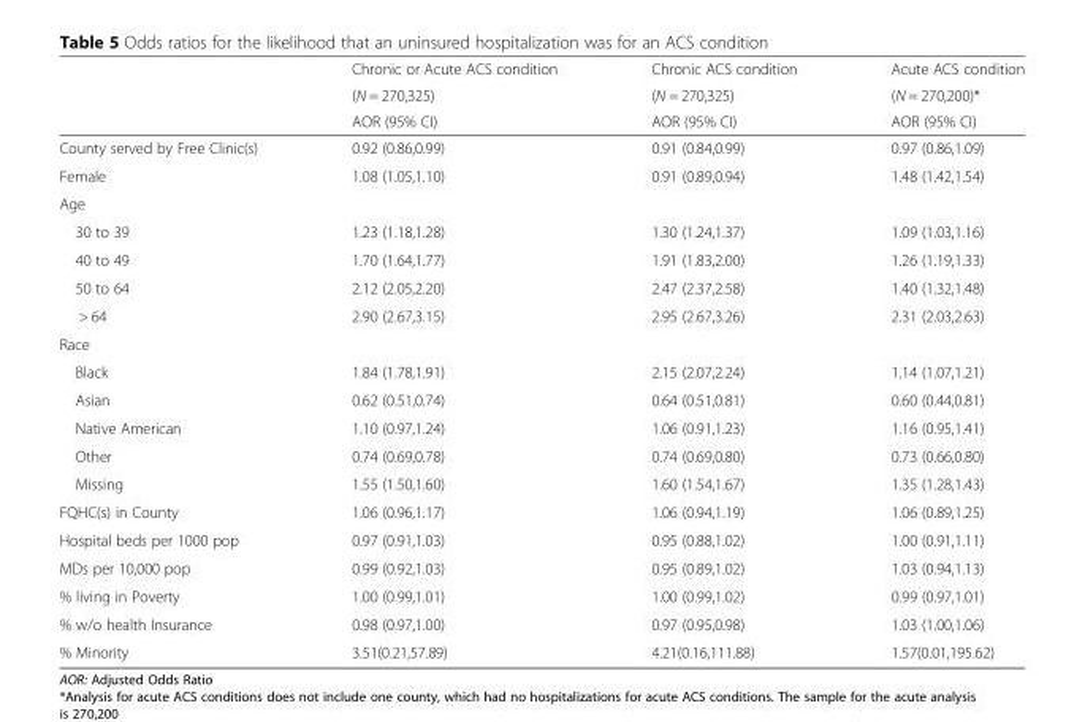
<table><thead><tr><td rowspan="3"></td><td rowspan="3">Chronic or Acute ACS condition (N = 270,325) AOR (95% CI)</td><td rowspan="3">Chronic ACS condition (N = 270,325) AOR (95% CI)</td><td rowspan="3">Acute ACS condition (N = 270,200)* AOR (95% CI)</td></tr><tr></tr><tr></tr></thead><tbody><tr><td>County served by Free Clinic(s)</td><td>0.92 (0.86,0.99)</td><td>0.91 (0.84,0.99)</td><td>0.97 (0.86,1.09)</td></tr><tr><td>Female</td><td>1.08 (1.05,1.10)</td><td>0.91 (0.89,0.94)</td><td>1.48 (1.42,1.54)</td></tr><tr><td colspan="4">Age</td></tr><tr><td>30 to 39</td><td>1.23 (1.18,1.28)</td><td>1.30 (1.24,1.37)</td><td>1.09 (1.03,1.16)</td></tr><tr><td>40 to 49</td><td>1.70 (1.64,1.77)</td><td>1.91 (1.83,2.00)</td><td>1.26 (1.19,1.33)</td></tr><tr><td>50 to 64</td><td>2.12 (2.05,2.20)</td><td>2.47 (2.37,2.58)</td><td>1.40 (1.32,1.48)</td></tr><tr><td>&gt; 64</td><td>2.90 (2.67,3.15)</td><td>2.95 (2.67,3.26)</td><td>2.31 (2.03,2.63)</td></tr><tr><td colspan="4">Race</td></tr><tr><td>Black</td><td>1.84 (1.78,1.91)</td><td>2.15 (2.07,2.24)</td><td>1.14 (1.07,1.21)</td></tr><tr><td>Asian</td><td>0.62 (0.51,0.74)</td><td>0.64 (0.51,0.81)</td><td>0.60 (0.44,0.81)</td></tr><tr><td>Native American</td><td>1.10 (0.97,1.24)</td><td>1.06 (0.91,1.23)</td><td>1.16 (0.95,1.41)</td></tr><tr><td>Other</td><td>0.74 (0.69,0.78)</td><td>0.74 (0.69,0.80)</td><td>0.73 (0.66,0.80)</td></tr><tr><td>Missing</td><td>1.55 (1.50,1.60)</td><td>1.60 (1.54,1.67)</td><td>1.35 (1.28,1.43)</td></tr><tr><td>FQHC(s) in County</td><td>1.06 (0.96,1.17)</td><td>1.06 (0.94,1.19)</td><td>1.06 (0.89,1.25)</td></tr><tr><td>Hospital beds per 1000 pop</td><td>0.97 (0.91,1.03)</td><td>0.95 (0.88,1.02)</td><td>1.00 (0.91,1.11)</td></tr><tr><td>MDs per 10,000 pop</td><td>0.99 (0.92,1.03)</td><td>0.95 (0.89,1.02)</td><td>1.03 (0.94,1.13)</td></tr><tr><td>% living in Poverty</td><td>1.00 (0.99,1.01)</td><td>1.00 (0.99,1.02)</td><td>0.99 (0.97,1.01)</td></tr><tr><td>% w/o health Insurance</td><td>0.98 (0.97,1.00)</td><td>0.97 (0.95,0.98)</td><td>1.03 (1.00,1.06)</td></tr><tr><td>% Minority</td><td>3.51(0.21,57.89)</td><td>4.21(0.16,111.88)</td><td>1.57(0.01,195.62)</td></tr></tbody></table>